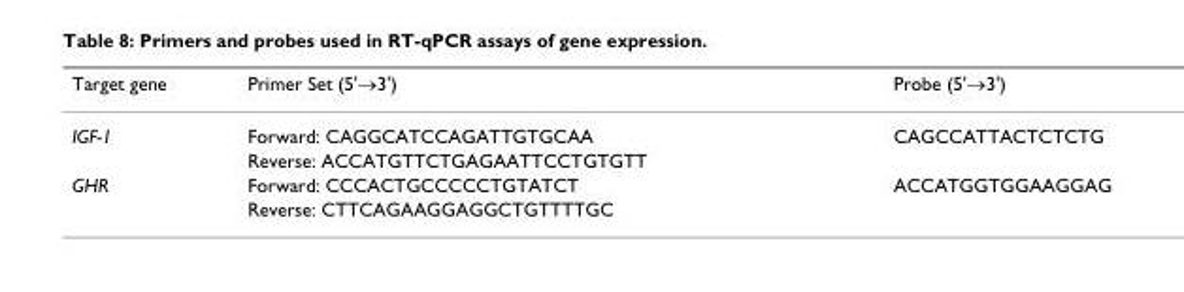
<table><thead><tr><td>Target gene</td><td>Primer Set (5&#x27;→3&#x27;)</td><td>Probe (5&#x27;→3&#x27;)</td></tr></thead><tbody><tr><td rowspan="2">IGF-1</td><td>Forward: CAGGCATCCAGATTGTGCAA</td><td>CAGCCATTACTCTCTG</td></tr><tr><td>Reverse: ACCATGTTCTGAGAATTCCTGTGTT</td><td></td></tr><tr><td rowspan="2">GHR</td><td>Forward: CCCACTGCCCCCTGTATCT</td><td>ACCATGGTGGAAGGAG</td></tr><tr><td>Reverse: CTTCAGAAGGAGGCTGTTTTGC</td><td></td></tr></tbody></table>